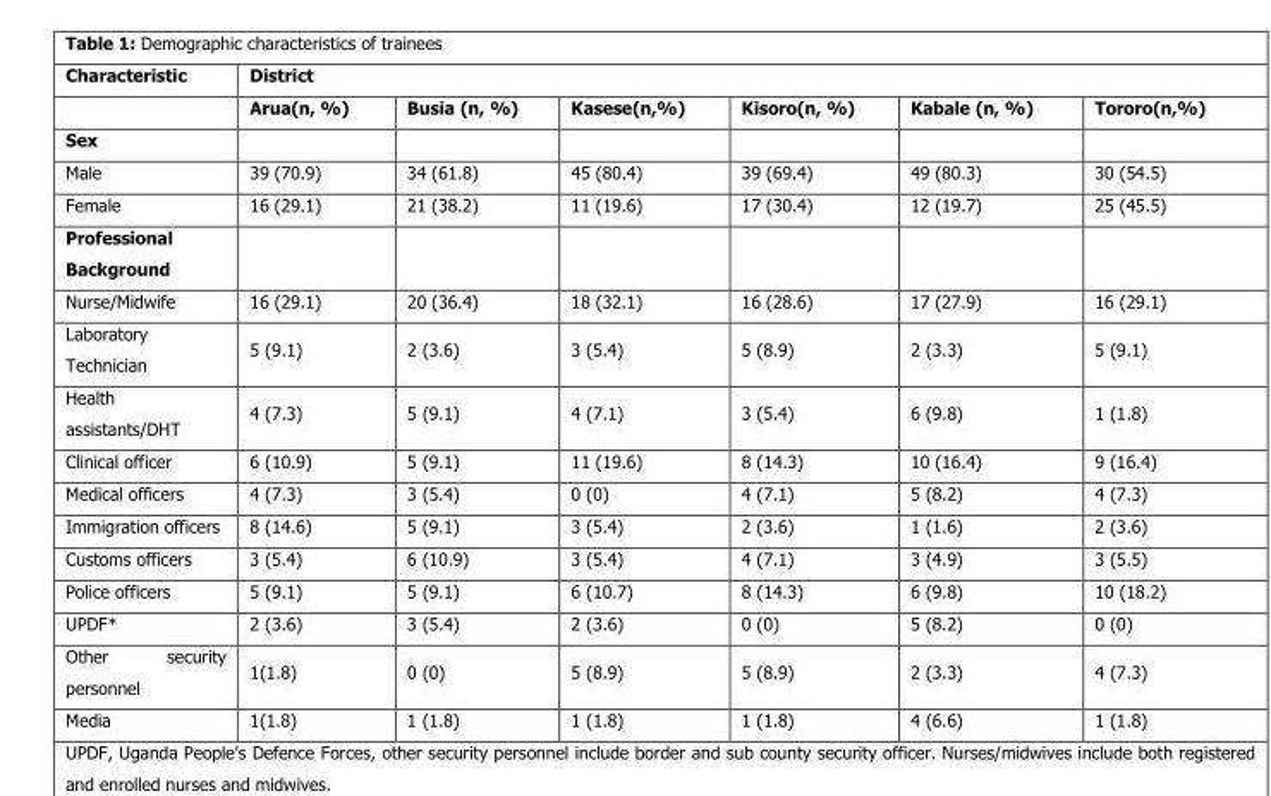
<table><thead><tr><td rowspan="2">Characteristic</td><td colspan="6">District</td></tr><tr><td>Arua(n, %)</td><td>Busia (n, %)</td><td>Kasese(n,%)</td><td>Kisoro(n, %)</td><td>Kabale (n, %)</td><td>Tororo(n,%)</td></tr></thead><tbody><tr><td colspan="7">Sex</td></tr><tr><td>Male</td><td>39 (70.9)</td><td>34 (61.8)</td><td>45 (80.4)</td><td>39 (69.4)</td><td>49 (80.3)</td><td>30 (54.5)</td></tr><tr><td>Female</td><td>16 (29.1)</td><td>21 (38.2)</td><td>11 (19.6)</td><td>17 (30.4)</td><td>12 (19.7)</td><td>25 (45.5)</td></tr><tr><td colspan="7">Professional Background</td></tr><tr><td>Nurse/Midwife</td><td>16 (29.1)</td><td>20 (36.4)</td><td>18 (32.1)</td><td>16 (28.6)</td><td>17 (27.9)</td><td>16 (29.1)</td></tr><tr><td>Laboratory Technician</td><td>5 (9.1)</td><td>2 (3.6)</td><td>3 (5.4)</td><td>5 (8.9)</td><td>2 (3.3)</td><td>5 (9.1)</td></tr><tr><td>Health assistants/DHT</td><td>4 (7.3)</td><td>5 (9.1)</td><td>4 (7.1)</td><td>3 (5.4)</td><td>6 (9.8)</td><td>1 (1.8)</td></tr><tr><td>Clinical officer</td><td>6 (10.9)</td><td>5 (9.1)</td><td>11 (19.6)</td><td>8 (14.3)</td><td>10 (16.4)</td><td>9 (16.4)</td></tr><tr><td>Medical officers</td><td>4 (7.3)</td><td>3 (5.4)</td><td>0 (0)</td><td>4 (7.1)</td><td>5 (8.2)</td><td>4 (7.3)</td></tr><tr><td>Immigration officers</td><td>8 (14.6)</td><td>5 (9.1)</td><td>3 (5.4)</td><td>2 (3.6)</td><td>1 (1.6)</td><td>2 (3.6)</td></tr><tr><td>Customs officers</td><td>3 (5.4)</td><td>6 (10.9)</td><td>3 (5.4)</td><td>4 (7.1)</td><td>3 (4.9)</td><td>3 (5.5)</td></tr><tr><td>Police officers</td><td>5 (9.1)</td><td>5 (9.1)</td><td>6 (10.7)</td><td>8 (14.3)</td><td>6 (9.8)</td><td>10 (18.2)</td></tr><tr><td>UPDF*</td><td>2 (3.6)</td><td>3 (5.4)</td><td>2 (3.6)</td><td>0 (0)</td><td>5 (8.2)</td><td>0 (0)</td></tr><tr><td>Other security personnel</td><td>1(1.8)</td><td>0 (0)</td><td>5 (8.9)</td><td>5 (8.9)</td><td>2 (3.3)</td><td>4 (7.3)</td></tr><tr><td>Media</td><td>1(1.8)</td><td>1 (1.8)</td><td>1 (1.8)</td><td>1 (1.8)</td><td>4 (6.6)</td><td>1 (1.8)</td></tr></tbody></table>